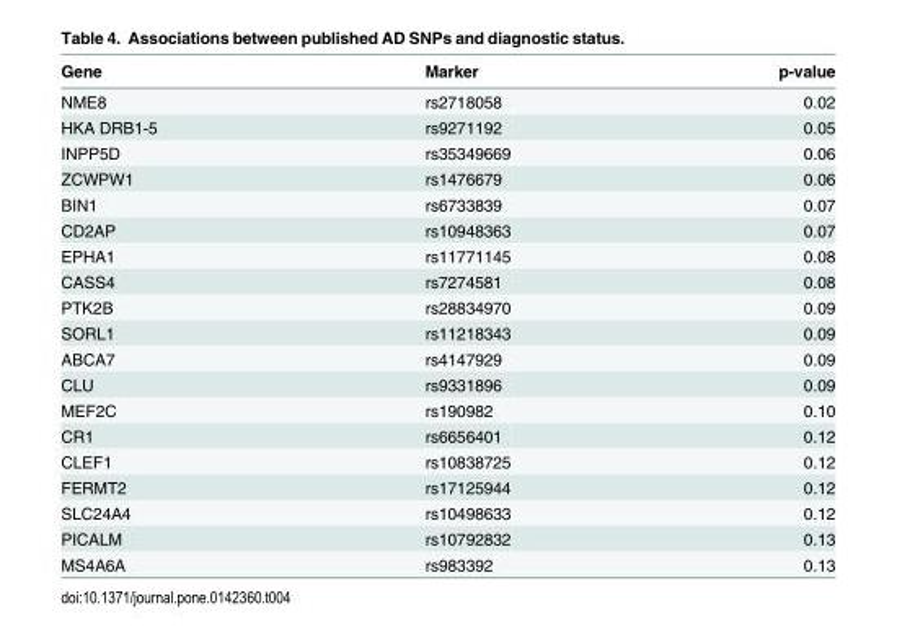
<table><thead><tr><td>Gene</td><td>Marker</td><td>p-value</td></tr></thead><tbody><tr><td>NME8</td><td>rs2718058</td><td>0.02</td></tr><tr><td>HKA DRB1-5</td><td>rs9271192</td><td>0.05</td></tr><tr><td>INPP5D</td><td>rs35349669</td><td>0.06</td></tr><tr><td>ZCWPW1</td><td>rs1476679</td><td>0.06</td></tr><tr><td>BIN1</td><td>rs6733839</td><td>0.07</td></tr><tr><td>CD2AP</td><td>rs10948363</td><td>0.07</td></tr><tr><td>EPHA1</td><td>rs11771145</td><td>0.08</td></tr><tr><td>CASS4</td><td>rs7274581</td><td>0.08</td></tr><tr><td>PTK2B</td><td>rs28834970</td><td>0.09</td></tr><tr><td>SORL1</td><td>rs11218343</td><td>0.09</td></tr><tr><td>ABCA7</td><td>rs4147929</td><td>0.09</td></tr><tr><td>CLU</td><td>rs9331896</td><td>0.09</td></tr><tr><td>MEF2C</td><td>rs190982</td><td>0.10</td></tr><tr><td>CR1</td><td>rs6656401</td><td>0.12</td></tr><tr><td>CLEF1</td><td>rs10838725</td><td>0.12</td></tr><tr><td>FERMT2</td><td>rs17125944</td><td>0.12</td></tr><tr><td>SLC24A4</td><td>rs10498633</td><td>0.12</td></tr><tr><td>PICALM</td><td>rs10792832</td><td>0.13</td></tr><tr><td>MS4A6A</td><td>rs983392</td><td>0.13</td></tr></tbody></table>